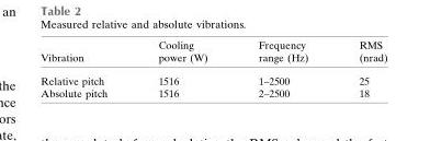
<table><thead><tr><td>Vibration</td><td>Cooling power (W)</td><td>Frequency range (Hz)</td><td>RMS (nrad)</td></tr></thead><tbody><tr><td>Relative pitch</td><td>1516</td><td>1–2500</td><td>25</td></tr><tr><td>Absolute pitch</td><td>1516</td><td>2–2500</td><td>18</td></tr></tbody></table>